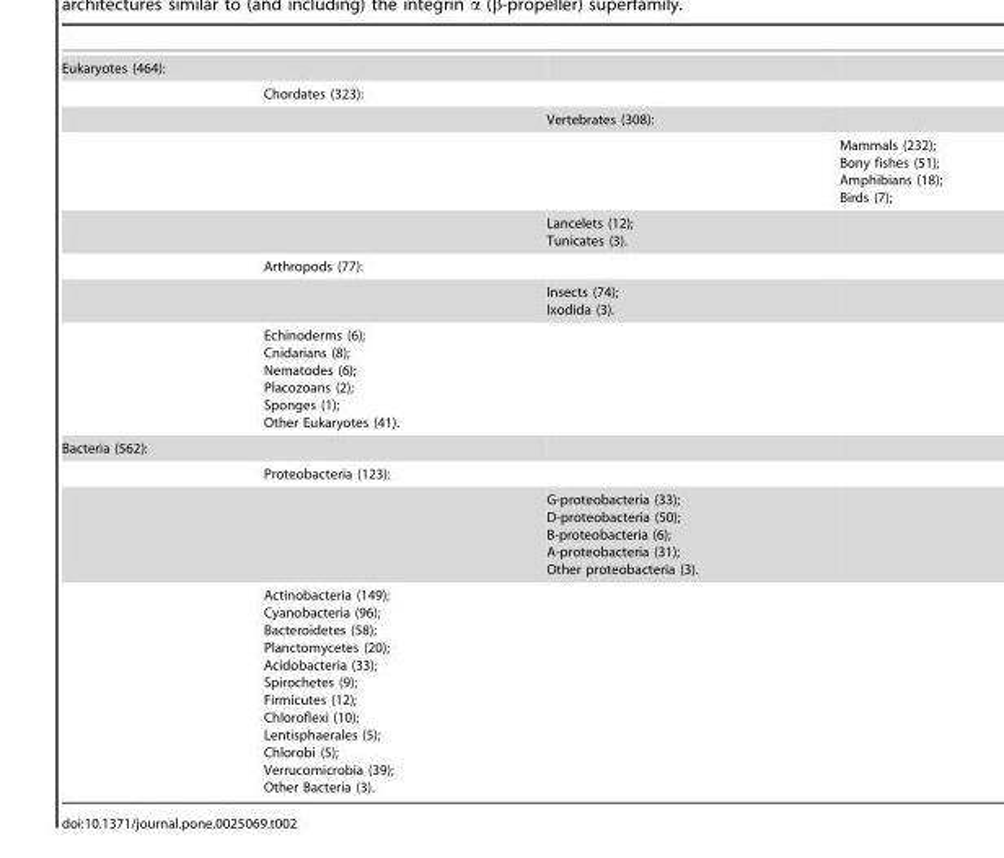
<table><tbody><tr><td colspan="4">Eukaryotes (464):</td></tr><tr><td></td><td>Chordates (323):</td><td></td><td></td></tr><tr><td></td><td></td><td>Vertebrates (308):</td><td></td></tr><tr><td></td><td></td><td></td><td>Mammals (232); Bony fishes (51); Amphibians (18); Birds (7);</td></tr><tr><td></td><td></td><td>Lancelets (12); Tunicates (3).</td><td></td></tr><tr><td></td><td>Arthropods (77):</td><td></td><td></td></tr><tr><td></td><td></td><td>Insects (74); Ixodida (3).</td><td></td></tr><tr><td></td><td>Echinoderms (6); Cnidarians (8); Nematodes (6); Placozoans (2); Sponges (1); Other Eukaryotes (41).</td><td></td><td></td></tr><tr><td colspan="4">Bacteria (562):</td></tr><tr><td></td><td>Proteobacteria (123):</td><td></td><td></td></tr><tr><td></td><td></td><td>G-proteobacteria (33); D-proteobacteria (50); B-proteobacteria (6); A-proteobacteria (31); Other proteobacteria (3).</td><td></td></tr><tr><td></td><td>Actinobacteria (149); Cyanobacteria (96); Bacteroidetes (58); Planctomycetes (20); Acidobacteria (33); Spirochetes (9); Firmicutes (12); Chloroflexi (10); Lentisphaerales (5); Chlorobi (5); Verrucomicrobia (39); Other Bacteria (3).</td><td></td><td></td></tr></tbody></table>